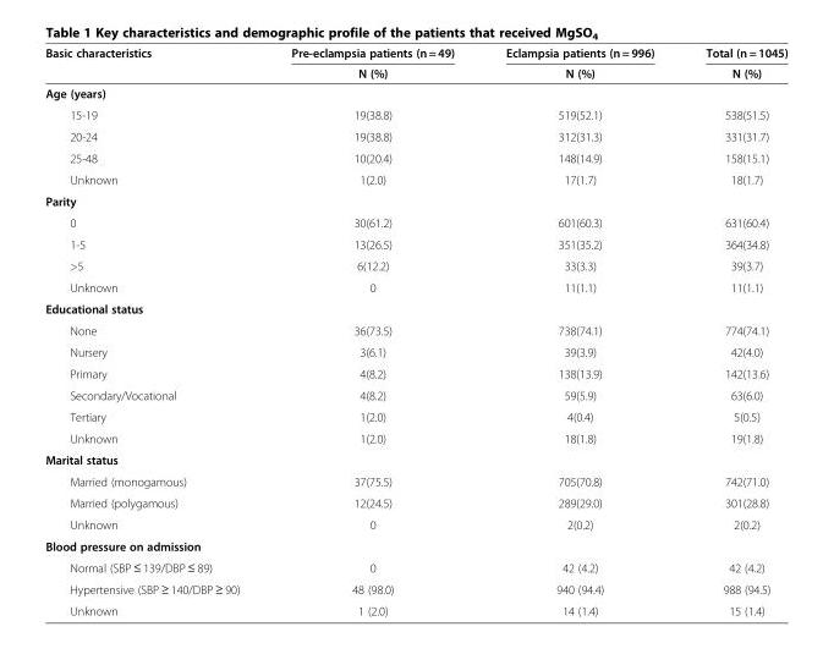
<table><thead><tr><td rowspan="2">Basic characteristics</td><td rowspan="2">Pre-eclampsia patients (n = 49) N (%)</td><td rowspan="2">Eclampsia patients (n = 996) N (%)</td><td rowspan="2">Total (n = 1045) N (%)</td></tr><tr></tr></thead><tbody><tr><td colspan="4">Age (years)</td></tr><tr><td>15-19</td><td>19(38.8)</td><td>519(52.1)</td><td>538(51.5)</td></tr><tr><td>20-24</td><td>19(38.8)</td><td>312(31.3)</td><td>331(31.7)</td></tr><tr><td>25-48</td><td>10(20.4)</td><td>148(14.9)</td><td>158(15.1)</td></tr><tr><td>Unknown</td><td>1(2.0)</td><td>17(1.7)</td><td>18(1.7)</td></tr><tr><td colspan="4">Parity</td></tr><tr><td>0</td><td>30(61.2)</td><td>601(60.3)</td><td>631(60.4)</td></tr><tr><td>1-5</td><td>13(26.5)</td><td>351(35.2)</td><td>364(34.8)</td></tr><tr><td>&gt;5</td><td>6(12.2)</td><td>33(3.3)</td><td>39(3.7)</td></tr><tr><td>Unknown</td><td>0</td><td>11(1.1)</td><td>11(1.1)</td></tr><tr><td colspan="4">Educational status</td></tr><tr><td>None</td><td>36(73.5)</td><td>738(74.1)</td><td>774(74.1)</td></tr><tr><td>Nursery</td><td>3(6.1)</td><td>39(3.9)</td><td>42(4.0)</td></tr><tr><td>Primary</td><td>4(8.2)</td><td>138(13.9)</td><td>142(13.6)</td></tr><tr><td>Secondary/Vocational</td><td>4(8.2)</td><td>59(5.9)</td><td>63(6.0)</td></tr><tr><td>Tertiary</td><td>1(2.0)</td><td>4(0.4)</td><td>5(0.5)</td></tr><tr><td>Unknown</td><td>1(2.0)</td><td>18(1.8)</td><td>19(1.8)</td></tr><tr><td colspan="4">Marital status</td></tr><tr><td>Married (monogamous)</td><td>37(75.5)</td><td>705(70.8)</td><td>742(71.0)</td></tr><tr><td>Married (polygamous)</td><td>12(24.5)</td><td>289(29.0)</td><td>301(28.8)</td></tr><tr><td>Unknown</td><td>0</td><td>2(0.2)</td><td>2(0.2)</td></tr><tr><td colspan="4">Blood pressure on admission</td></tr><tr><td>Normal (SBP ≤ 139/DBP ≤ 89)</td><td>0</td><td>42 (4.2)</td><td>42 (4.2)</td></tr><tr><td>Hypertensive (SBP ≥ 140/DBP ≥ 90)</td><td>48 (98.0)</td><td>940 (94.4)</td><td>988 (94.5)</td></tr><tr><td>Unknown</td><td>1 (2.0)</td><td>14 (1.4)</td><td>15 (1.4)</td></tr></tbody></table>